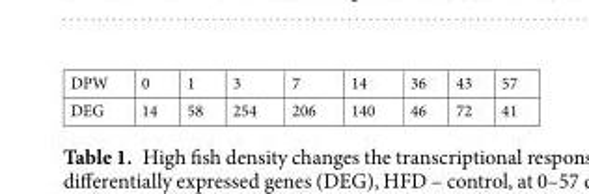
<table><tbody><tr><td>DPW</td><td>0</td><td>1</td><td>3</td><td>7</td><td>14</td><td>36</td><td>43</td><td>57</td></tr><tr><td>DEG</td><td>14</td><td>58</td><td>254</td><td>206</td><td>140</td><td>46</td><td>72</td><td>41</td></tr></tbody></table>